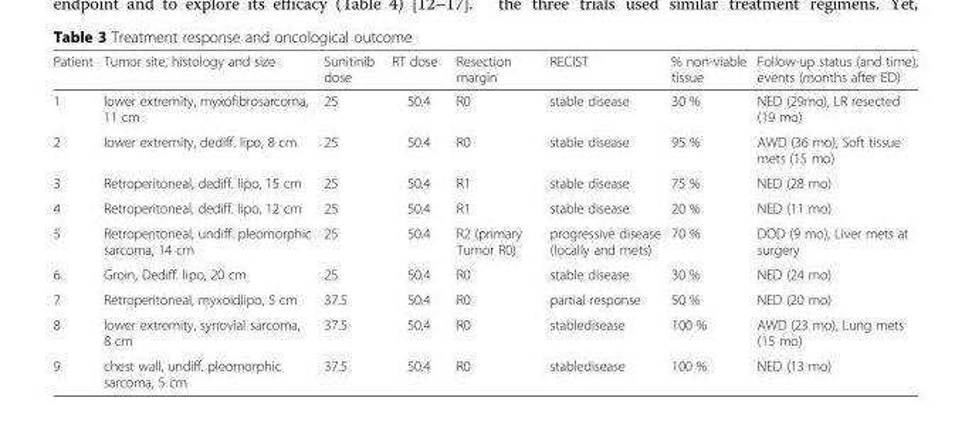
<table><thead><tr><td>Patient</td><td>Tumor site, histology and size</td><td>Sunitinib dose</td><td>RT dose</td><td>Resection margin</td><td>RECIST</td><td>% non-viable tissue</td><td>Follow-up status (and time), events (months after ED)</td></tr></thead><tbody><tr><td>1</td><td>lower extremity, myxofibrosarcoma, 11 cm</td><td>25</td><td>50.4</td><td>R0</td><td>stable disease</td><td>30 %</td><td>NED (29mo), LR resected (19 mo)</td></tr><tr><td>2</td><td>lower extremity, dediff. lipo, 8 cm</td><td>25</td><td>50.4</td><td>R0</td><td>stable disease</td><td>95 %</td><td>AWD (36 mo), Soft tissue mets (15 mo)</td></tr><tr><td>3</td><td>Retroperitoneal, dediff. lipo, 15 cm</td><td>25</td><td>50.4</td><td>R1</td><td>stable disease</td><td>75 %</td><td>NED (28 mo)</td></tr><tr><td>4</td><td>Retroperitoneal, dediff. lipo, 12 cm</td><td>25</td><td>50.4</td><td>R1</td><td>stable disease</td><td>20 %</td><td>NED (11 mo)</td></tr><tr><td>5</td><td>Retroperitoneal, undiff. pleomorphic sarcoma, 14 cm</td><td>25</td><td>50.4</td><td>R2 (primary Tumor R0)</td><td>progressive disease (locally and mets)</td><td>70 %</td><td>DOD (9 mo), Liver mets at surgery</td></tr><tr><td>6</td><td>Groin, Dediff. lipo, 20 cm</td><td>25</td><td>50.4</td><td>R0</td><td>stable disease</td><td>30 %</td><td>NED (24 mo)</td></tr><tr><td>7</td><td>Retroperitoneal, myxoidlipo, 5 cm</td><td>37.5</td><td>50.4</td><td>R0</td><td>partial response</td><td>50 %</td><td>NED (20 mo)</td></tr><tr><td>8</td><td>lower extremity, synovial sarcoma, 8 cm</td><td>37.5</td><td>50.4</td><td>R0</td><td>stabledisease</td><td>100 %</td><td>AWD (23 mo), Lung mets (15 mo)</td></tr><tr><td>9</td><td>chest wall, undiff. pleomorphic sarcoma, 5 cm</td><td>37.5</td><td>50.4</td><td>R0</td><td>stabledisease</td><td>100 %</td><td>NED (13 mo)</td></tr></tbody></table>